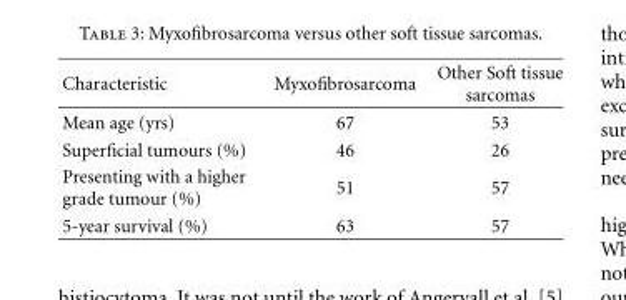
<table><thead><tr><td>Characteristic</td><td>Myxofibrosarcoma</td><td>Other Soft tissue sarcomas</td></tr></thead><tbody><tr><td>Mean age (yrs)</td><td>67</td><td>53</td></tr><tr><td>Superficial tumours (%)</td><td>46</td><td>26</td></tr><tr><td>Presenting with a higher grade tumour (%)</td><td>51</td><td>57</td></tr><tr><td>5-year survival (%)</td><td>63</td><td>57</td></tr></tbody></table>